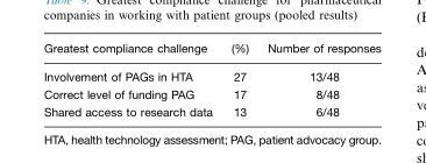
<table><thead><tr><td>Greatest compliance challenge</td><td>(%)</td><td>Number of responses</td></tr></thead><tbody><tr><td>Involvement of PAGs in HTA</td><td>27</td><td>13/48</td></tr><tr><td>Correct level of funding PAG</td><td>17</td><td>8/48</td></tr><tr><td>Shared access to research data</td><td>13</td><td>6/48</td></tr></tbody></table>